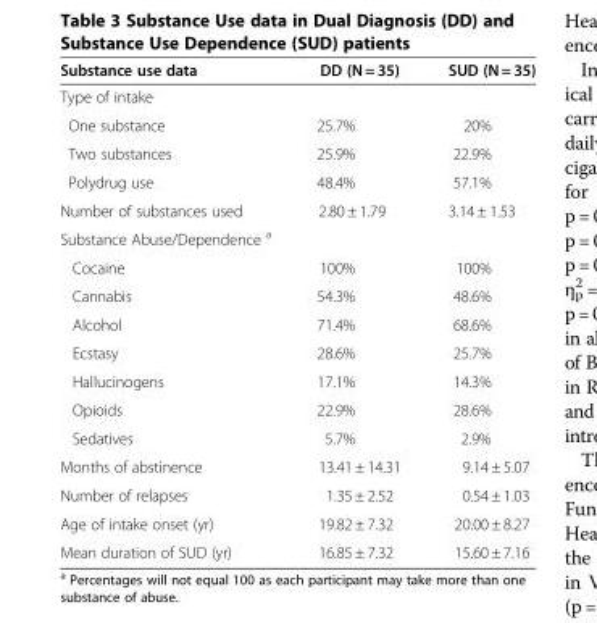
<table><thead><tr><td>Substance use data</td><td>DD (N = 35)</td><td>SUD (N = 35)</td></tr></thead><tbody><tr><td colspan="3">Type of intake</td></tr><tr><td>One substance</td><td>25.7%</td><td>20%</td></tr><tr><td>Two substances</td><td>25.9%</td><td>22.9%</td></tr><tr><td>Polydrug use</td><td>48.4%</td><td>57.1%</td></tr><tr><td>Number of substances used</td><td>2.80 ± 1.79</td><td>3.14 ± 1.53</td></tr><tr><td colspan="3">Substance Abuse/Dependence <sup>a</sup></td></tr><tr><td>Cocaine</td><td>100%</td><td>100%</td></tr><tr><td>Cannabis</td><td>54.3%</td><td>48.6%</td></tr><tr><td>Alcohol</td><td>71.4%</td><td>68.6%</td></tr><tr><td>Ecstasy</td><td>28.6%</td><td>25.7%</td></tr><tr><td>Hallucinogens</td><td>17.1%</td><td>14.3%</td></tr><tr><td>Opioids</td><td>22.9%</td><td>28.6%</td></tr><tr><td>Sedatives</td><td>5.7%</td><td>2.9%</td></tr><tr><td>Months of abstinence</td><td>13.41 ± 14.31</td><td>9.14 ± 5.07</td></tr><tr><td>Number of relapses</td><td>1.35 ± 2.52</td><td>0.54 ± 1.03</td></tr><tr><td>Age of intake onset (yr)</td><td>19.82 ± 7.32</td><td>20.00 ± 8.27</td></tr><tr><td>Mean duration of SUD (yr)</td><td>16.85 ± 7.32</td><td>15.60 ± 7.16</td></tr></tbody></table>